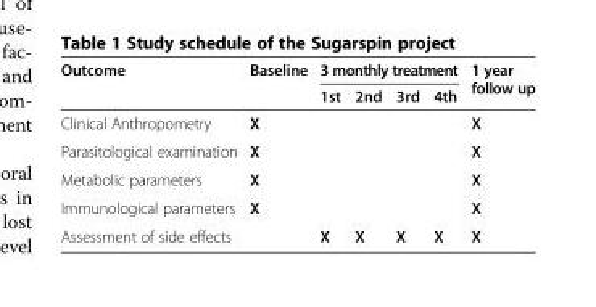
<table><thead><tr><td rowspan="2">Outcome</td><td rowspan="2">Baseline</td><td colspan="4">3 monthly treatment</td><td rowspan="2">1 year follow up</td></tr><tr><td>1st</td><td>2nd</td><td>3rd</td><td>4th</td></tr></thead><tbody><tr><td>Clinical Anthropometry</td><td>X</td><td></td><td></td><td></td><td></td><td>X</td></tr><tr><td>Parasitological examination</td><td>X</td><td></td><td></td><td></td><td></td><td>X</td></tr><tr><td>Metabolic parameters</td><td>X</td><td></td><td></td><td></td><td></td><td>X</td></tr><tr><td>Immunological parameters</td><td>X</td><td></td><td></td><td></td><td></td><td>X</td></tr><tr><td>Assessment of side effects</td><td></td><td>X</td><td>X</td><td>X</td><td>X</td><td>X</td></tr></tbody></table>